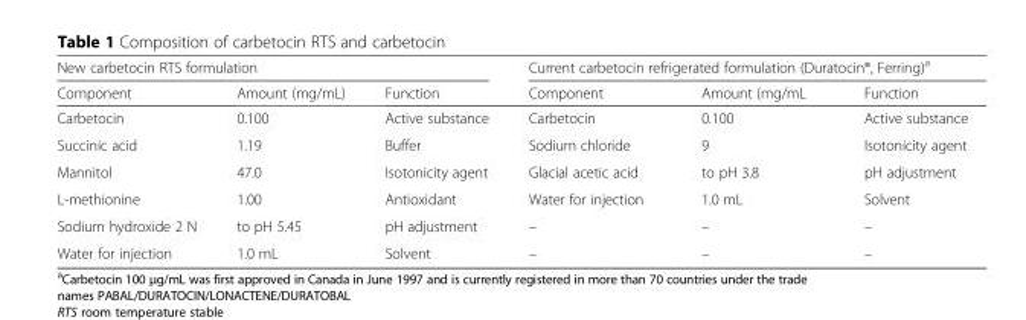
<table><thead><tr><td colspan="3">New carbetocin RTS formulation</td><td colspan="3">Current carbetocin refrigerated formulation (Duratocin®, Ferring)<sup>a</sup></td></tr><tr><td>Component</td><td>Amount (mg/mL)</td><td>Function</td><td>Component</td><td>Amount (mg/mL</td><td>Function</td></tr></thead><tbody><tr><td>Carbetocin</td><td>0.100</td><td>Active substance</td><td>Carbetocin</td><td>0.100</td><td>Active substance</td></tr><tr><td>Succinic acid</td><td>1.19</td><td>Buffer</td><td>Sodium chloride</td><td>9</td><td>Isotonicity agent</td></tr><tr><td>Mannitol</td><td>47.0</td><td>Isotonicity agent</td><td>Glacial acetic acid</td><td>to pH 3.8</td><td>pH adjustment</td></tr><tr><td>L-methionine</td><td>1.00</td><td>Antioxidant</td><td>Water for injection</td><td>1.0 mL</td><td>Solvent</td></tr><tr><td>Sodium hydroxide 2 N</td><td>to pH 5.45</td><td>pH adjustment</td><td>–</td><td>–</td><td>–</td></tr><tr><td>Water for injection</td><td>1.0 mL</td><td>Solvent</td><td>–</td><td>–</td><td>–</td></tr></tbody></table>